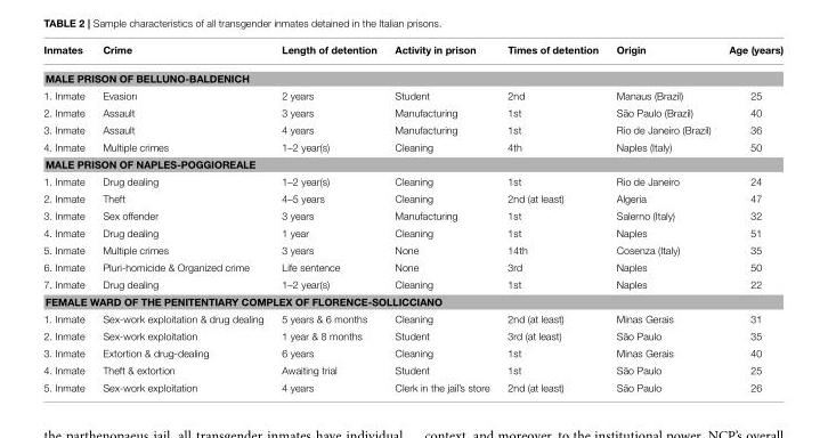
<table><thead><tr><td>Inmates</td><td>Crime</td><td>Length of detention</td><td>Activity in prison</td><td>Times of detention</td><td>Origin</td><td>Age (years)</td></tr></thead><tbody><tr><td colspan="7">MALE PRISON OF BELLUNO-BALDENICH</td></tr><tr><td>1. Inmate</td><td>Evasion</td><td>2 years</td><td>Student</td><td>2nd</td><td>Manaus (Brazil)</td><td>25</td></tr><tr><td>2. Inmate</td><td>Assault</td><td>3 years</td><td>Manufacturing</td><td>1st</td><td>São Paulo (Brazil)</td><td>40</td></tr><tr><td>3. Inmate</td><td>Assault</td><td>4 years</td><td>Manufacturing</td><td>1st</td><td>Rio de Janeiro (Brazil)</td><td>36</td></tr><tr><td>4. Inmate</td><td>Multiple crimes</td><td>1–2 year(s)</td><td>Cleaning</td><td>4th</td><td>Naples (Italy)</td><td>50</td></tr><tr><td colspan="7">MALE PRISON OF NAPLES-POGGIOREALE</td></tr><tr><td>1. Inmate</td><td>Drug dealing</td><td>1–2 year(s)</td><td>Cleaning</td><td>1st</td><td>Rio de Janeiro</td><td>24</td></tr><tr><td>2. Inmate</td><td>Theft</td><td>4–5 years</td><td>Cleaning</td><td>2nd (at least)</td><td>Algeria</td><td>47</td></tr><tr><td>3. Inmate</td><td>Sex offender</td><td>3 years</td><td>Manufacturing</td><td>1st</td><td>Salerno (Italy)</td><td>32</td></tr><tr><td>4. Inmate</td><td>Drug dealing</td><td>1 year</td><td>Cleaning</td><td>1st</td><td>Naples</td><td>51</td></tr><tr><td>5. Inmate</td><td>Multiple crimes</td><td>3 years</td><td>None</td><td>14th</td><td>Cosenza (Italy)</td><td>35</td></tr><tr><td>6. Inmate</td><td>Pluri-homicide &amp; Organized crime</td><td>Life sentence</td><td>None</td><td>3rd</td><td>Naples</td><td>50</td></tr><tr><td>7. Inmate</td><td>Drug dealing</td><td>1–2 year(s)</td><td>Cleaning</td><td>1st</td><td>Naples</td><td>22</td></tr><tr><td colspan="7">FEMALE WARD OF THE PENITENTIARY COMPLEX OF FLORENCE-SOLLICCIANO</td></tr><tr><td>1. Inmate</td><td>Sex-work exploitation &amp; drug dealing</td><td>5 years &amp; 6 months</td><td>Cleaning</td><td>2nd (at least)</td><td>Minas Gerais</td><td>31</td></tr><tr><td>2. Inmate</td><td>Sex-work exploitation</td><td>1 year &amp; 8 months</td><td>Student</td><td>3rd (at least)</td><td>São Paulo</td><td>35</td></tr><tr><td>3. Inmate</td><td>Extortion &amp; drug-dealing</td><td>6 years</td><td>Cleaning</td><td>1st</td><td>Minas Gerais</td><td>40</td></tr><tr><td>4. Inmate</td><td>Theft &amp; extortion</td><td>Awaiting trial</td><td>Student</td><td>1st</td><td>São Paulo</td><td>25</td></tr><tr><td>5. Inmate</td><td>Sex-work exploitation</td><td>4 years</td><td>Clerk in the jail’s store</td><td>2nd (at least)</td><td>São Paulo</td><td>26</td></tr></tbody></table>